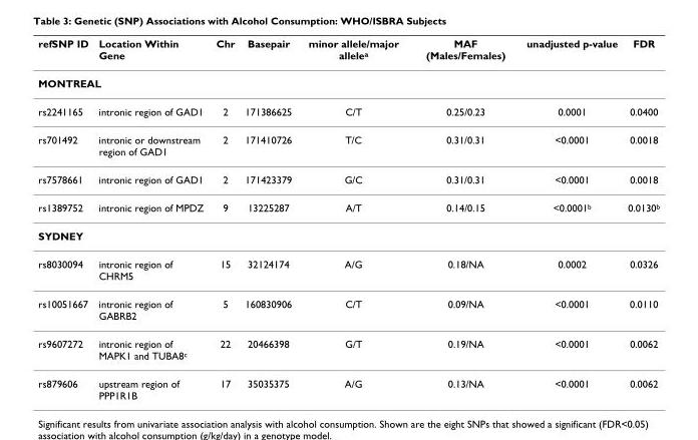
<table><thead><tr><td>refSNP ID</td><td>Location Within Gene</td><td>Chr</td><td>Basepair</td><td>minor allele/major allele<sup>a</sup></td><td>MAF (Males/Females)</td><td>unadjusted p-value</td><td>FDR</td></tr></thead><tbody><tr><td colspan="8">MONTREAL</td></tr><tr><td>rs2241165</td><td>intronic region of GAD1</td><td>2</td><td>171386625</td><td>C/T</td><td>0.25/0.23</td><td>0.0001</td><td>0.0400</td></tr><tr><td>rs701492</td><td>intronic or downstream region of GAD1</td><td>2</td><td>171410726</td><td>T/C</td><td>0.31/0.31</td><td>&lt;0.0001</td><td>0.0018</td></tr><tr><td>rs7578661</td><td>intronic region of GAD1</td><td>2</td><td>171423379</td><td>G/C</td><td>0.31/0.31</td><td>&lt;0.0001</td><td>0.0018</td></tr><tr><td>rs1389752</td><td>intronic region of MPDZ</td><td>9</td><td>13225287</td><td>A/T</td><td>0.14/0.15</td><td>&lt;0.0001<sup>b</sup></td><td>0.0130<sup>b</sup></td></tr><tr><td colspan="8">SYDNEY</td></tr><tr><td>rs8030094</td><td>intronic region of CHRM5</td><td>15</td><td>32124174</td><td>A/G</td><td>0.18/NA</td><td>0.0002</td><td>0.0326</td></tr><tr><td>rs10051667</td><td>intronic region of GABRB2</td><td>5</td><td>160830906</td><td>C/T</td><td>0.09/NA</td><td>&lt;0.0001</td><td>0.0110</td></tr><tr><td>rs9607272</td><td>intronic region of MAPK1 and TUBA8<sup>c</sup></td><td>22</td><td>20466398</td><td>G/T</td><td>0.19/NA</td><td>&lt;0.0001</td><td>0.0062</td></tr><tr><td>rs879606</td><td>upstream region of PPP1R1B</td><td>17</td><td>35035375</td><td>A/G</td><td>0.13/NA</td><td>&lt;0.0001</td><td>0.0062</td></tr></tbody></table>